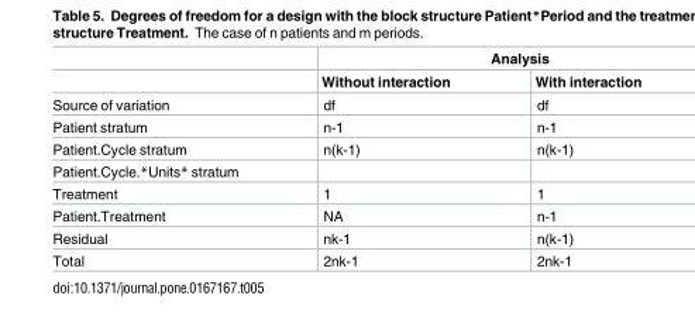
<table><thead><tr><td rowspan="2"></td><td colspan="2">Analysis</td></tr><tr><td>Without interaction</td><td>With interaction</td></tr></thead><tbody><tr><td>Source of variation</td><td>df</td><td>df</td></tr><tr><td>Patient stratum</td><td>n-1</td><td>n-1</td></tr><tr><td>Patient.Cycle stratum</td><td>n(k-1)</td><td>n(k-1)</td></tr><tr><td colspan="3">Patient.Cycle.*Units* stratum</td></tr><tr><td>Treatment</td><td>1</td><td>1</td></tr><tr><td>Patient.Treatment</td><td>NA</td><td>n-1</td></tr><tr><td>Residual</td><td>nk-1</td><td>n(k-1)</td></tr><tr><td>Total</td><td>2nk-1</td><td>2nk-1</td></tr></tbody></table>